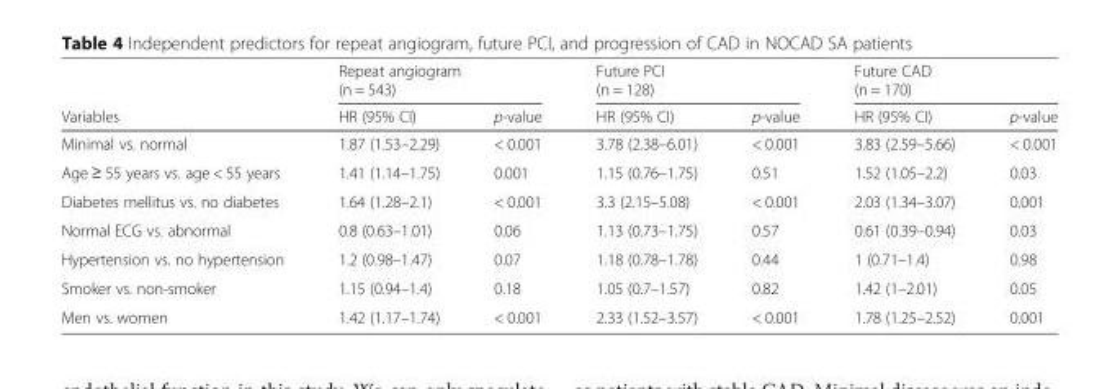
<table><thead><tr><td rowspan="2">Variables</td><td colspan="2">Repeat angiogram (n = 543)</td><td colspan="2">Future PCI (n = 128)</td><td colspan="2">Future CAD (n = 170)</td></tr><tr><td>HR (95% CI)</td><td>p-value</td><td>HR (95% CI)</td><td>p-value</td><td>HR (95% CI)</td><td>p-value</td></tr></thead><tbody><tr><td>Minimal vs. normal</td><td>1.87 (1.53–2.29)</td><td>&lt; 0.001</td><td>3.78 (2.38–6.01)</td><td>&lt; 0.001</td><td>3.83 (2.59–5.66)</td><td>&lt; 0.001</td></tr><tr><td>Age ≥ 55 years vs. age &lt; 55 years</td><td>1.41 (1.14–1.75)</td><td>0.001</td><td>1.15 (0.76–1.75)</td><td>0.51</td><td>1.52 (1.05–2.2)</td><td>0.03</td></tr><tr><td>Diabetes mellitus vs. no diabetes</td><td>1.64 (1.28–2.1)</td><td>&lt; 0.001</td><td>3.3 (2.15–5.08)</td><td>&lt; 0.001</td><td>2.03 (1.34–3.07)</td><td>0.001</td></tr><tr><td>Normal ECG vs. abnormal</td><td>0.8 (0.63–1.01)</td><td>0.06</td><td>1.13 (0.73–1.75)</td><td>0.57</td><td>0.61 (0.39–0.94)</td><td>0.03</td></tr><tr><td>Hypertension vs. no hypertension</td><td>1.2 (0.98–1.47)</td><td>0.07</td><td>1.18 (0.78–1.78)</td><td>0.44</td><td>1 (0.71–1.4)</td><td>0.98</td></tr><tr><td>Smoker vs. non-smoker</td><td>1.15 (0.94–1.4)</td><td>0.18</td><td>1.05 (0.7–1.57)</td><td>0.82</td><td>1.42 (1–2.01)</td><td>0.05</td></tr><tr><td>Men vs. women</td><td>1.42 (1.17–1.74)</td><td>&lt; 0.001</td><td>2.33 (1.52–3.57)</td><td>&lt; 0.001</td><td>1.78 (1.25–2.52)</td><td>0.001</td></tr></tbody></table>